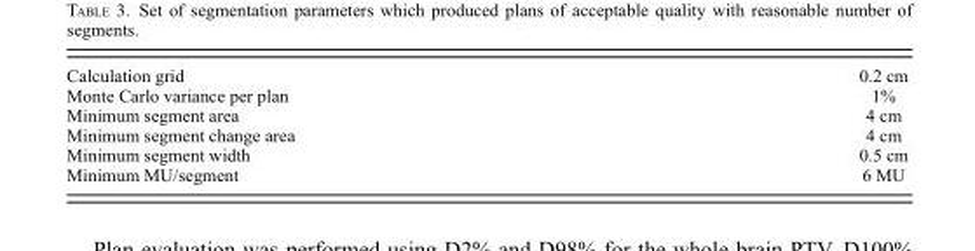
<table><tbody><tr><td>Calculation grid</td><td>0.2 cm</td></tr><tr><td>Monte Carlo variance per plan</td><td>1%</td></tr><tr><td>Minimum segment area</td><td>4 cm</td></tr><tr><td>Minimum segment change area</td><td>4 cm</td></tr><tr><td>Minimum segment width</td><td>0.5 cm</td></tr><tr><td>Minimum MU/segment</td><td>6 MU</td></tr></tbody></table>